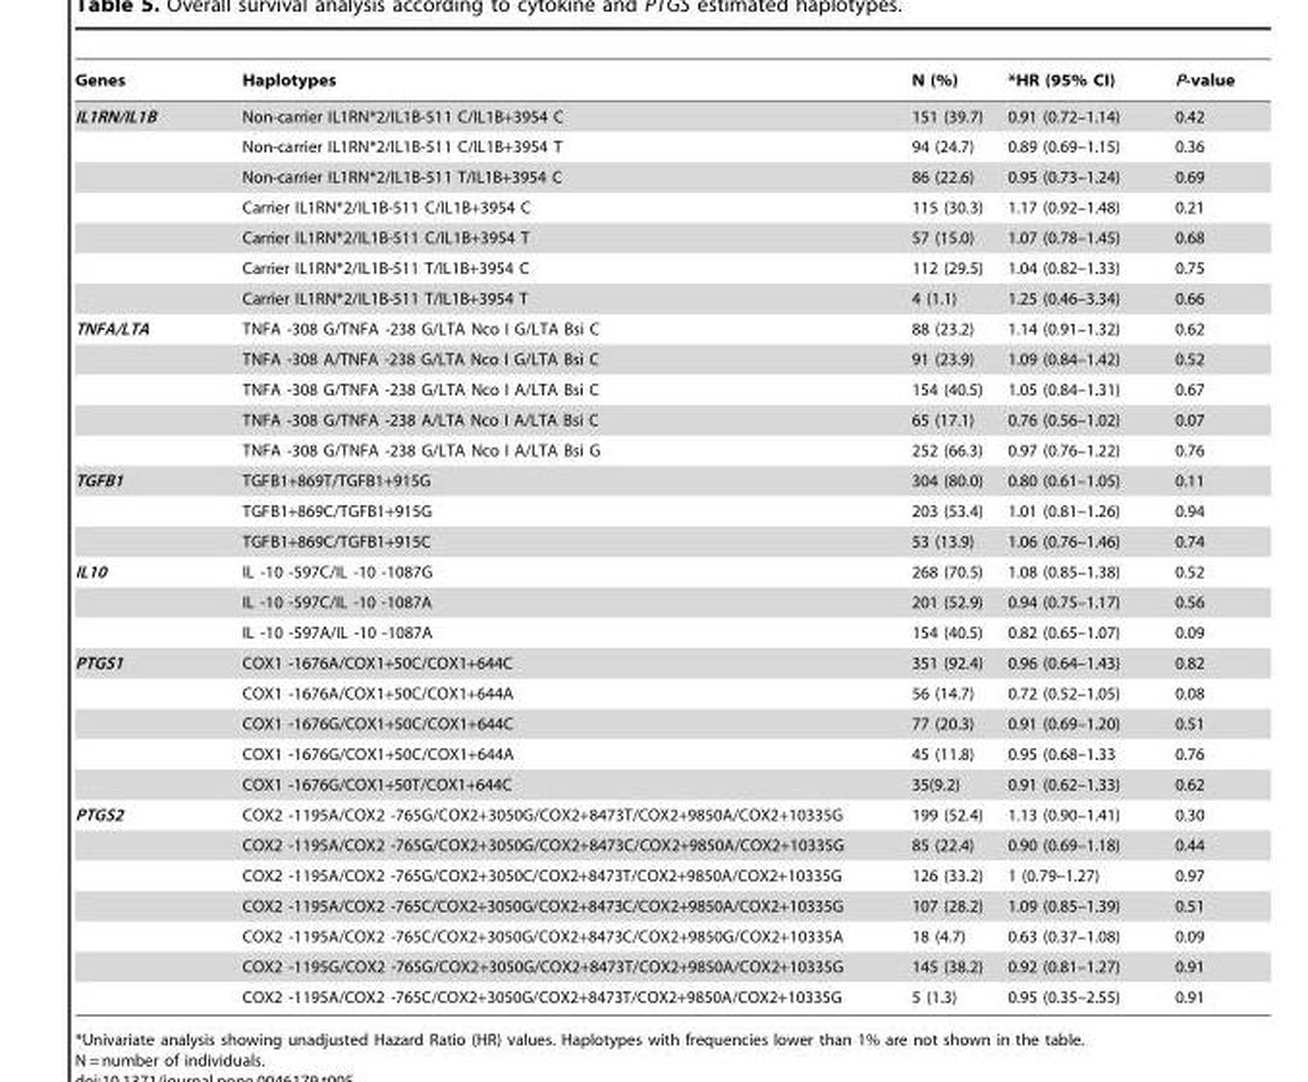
<table><thead><tr><td>Genes</td><td>Haplotypes</td><td>N (%)</td><td>*HR (95% CI)</td><td>P-value</td></tr></thead><tbody><tr><td rowspan="7">IL1RN/IL1B</td><td>Non-carrier IL1RN*2/IL1B-511 C/IL1B+3954 C</td><td>151 (39.7)</td><td>0.91 (0.72–1.14)</td><td>0.42</td></tr><tr><td>Non-carrier IL1RN*2/IL1B-511 C/IL1B+3954 T</td><td>94 (24.7)</td><td>0.89 (0.69–1.15)</td><td>0.36</td></tr><tr><td>Non-carrier IL1RN*2/IL1B-511 T/IL1B+3954 C</td><td>86 (22.6)</td><td>0.95 (0.73–1.24)</td><td>0.69</td></tr><tr><td>Carrier IL1RN*2/IL1B-511 C/IL1B+3954 C</td><td>115 (30.3)</td><td>1.17 (0.92–1.48)</td><td>0.21</td></tr><tr><td>Carrier IL1RN*2/IL1B-511 C/IL1B+3954 T</td><td>57 (15.0)</td><td>1.07 (0.78–1.45)</td><td>0.68</td></tr><tr><td>Carrier IL1RN*2/IL1B-511 T/IL1B+3954 C</td><td>112 (29.5)</td><td>1.04 (0.82–1.33)</td><td>0.75</td></tr><tr><td>Carrier IL1RN*2/IL1B-511 T/IL1B+3954 T</td><td>4 (1.1)</td><td>1.25 (0.46–3.34)</td><td>0.66</td></tr><tr><td rowspan="5">TNFA/LTA</td><td>TNFA -308 G/TNFA -238 G/LTA Nco I G/LTA Bsi C</td><td>88 (23.2)</td><td>1.14 (0.91–1.32)</td><td>0.62</td></tr><tr><td>TNFA -308 A/TNFA -238 G/LTA Nco I G/LTA Bsi C</td><td>91 (23.9)</td><td>1.09 (0.84–1.42)</td><td>0.52</td></tr><tr><td>TNFA -308 G/TNFA -238 G/LTA Nco I A/LTA Bsi C</td><td>154 (40.5)</td><td>1.05 (0.84–1.31)</td><td>0.67</td></tr><tr><td>TNFA -308 G/TNFA -238 A/LTA Nco I A/LTA Bsi C</td><td>65 (17.1)</td><td>0.76 (0.56–1.02)</td><td>0.07</td></tr><tr><td>TNFA -308 G/TNFA -238 G/LTA Nco I A/LTA Bsi G</td><td>252 (66.3)</td><td>0.97 (0.76–1.22)</td><td>0.76</td></tr><tr><td rowspan="3">TGFB1</td><td>TGFB1+869T/TGFB1+915G</td><td>304 (80.0)</td><td>0.80 (0.61–1.05)</td><td>0.11</td></tr><tr><td>TGFB1+869C/TGFB1+915G</td><td>203 (53.4)</td><td>1.01 (0.81–1.26)</td><td>0.94</td></tr><tr><td>TGFB1+869C/TGFB1+915C</td><td>53 (13.9)</td><td>1.06 (0.76–1.46)</td><td>0.74</td></tr><tr><td rowspan="3">IL10</td><td>IL -10 -597C/IL -10 -1087G</td><td>268 (70.5)</td><td>1.08 (0.85–1.38)</td><td>0.52</td></tr><tr><td>IL -10 -597C/IL -10 -1087A</td><td>201 (52.9)</td><td>0.94 (0.75–1.17)</td><td>0.56</td></tr><tr><td>IL -10 -597A/IL -10 -1087A</td><td>154 (40.5)</td><td>0.82 (0.65–1.07)</td><td>0.09</td></tr><tr><td rowspan="5">PTGS1</td><td>COX1 -1676A/COX1+50C/COX1+644C</td><td>351 (92.4)</td><td>0.96 (0.64–1.43)</td><td>0.82</td></tr><tr><td>COX1 -1676A/COX1+50C/COX1+644A</td><td>56 (14.7)</td><td>0.72 (0.52–1.05)</td><td>0.08</td></tr><tr><td>COX1 -1676G/COX1+50C/COX1+644C</td><td>77 (20.3)</td><td>0.91 (0.69–1.20)</td><td>0.51</td></tr><tr><td>COX1 -1676G/COX1+50C/COX1+644A</td><td>45 (11.8)</td><td>0.95 (0.68–1.33</td><td>0.76</td></tr><tr><td>COX1 -1676G/COX1+50T/COX1+644C</td><td>35(9.2)</td><td>0.91 (0.62–1.33)</td><td>0.62</td></tr><tr><td rowspan="7">PTGS2</td><td>COX2 -1195A/COX2 -765G/COX2+3050G/COX2+8473T/COX2+9850A/COX2+10335G</td><td>199 (52.4)</td><td>1.13 (0.90–1.41)</td><td>0.30</td></tr><tr><td>COX2 -1195A/COX2 -765G/COX2+3050G/COX2+8473C/COX2+9850A/COX2+10335G</td><td>85 (22.4)</td><td>0.90 (0.69–1.18)</td><td>0.44</td></tr><tr><td>COX2 -1195A/COX2 -765G/COX2+3050C/COX2+8473T/COX2+9850A/COX2+10335G</td><td>126 (33.2)</td><td>1 (0.79–1.27)</td><td>0.97</td></tr><tr><td>COX2 -1195A/COX2 -765C/COX2+3050G/COX2+8473C/COX2+9850A/COX2+10335G</td><td>107 (28.2)</td><td>1.09 (0.85–1.39)</td><td>0.51</td></tr><tr><td>COX2 -1195A/COX2 -765C/COX2+3050G/COX2+8473C/COX2+9850G/COX2+10335A</td><td>18 (4.7)</td><td>0.63 (0.37–1.08)</td><td>0.09</td></tr><tr><td>COX2 -1195G/COX2 -765G/COX2+3050G/COX2+8473T/COX2+9850A/COX2+10335G</td><td>145 (38.2)</td><td>0.92 (0.81–1.27)</td><td>0.91</td></tr><tr><td>COX2 -1195A/COX2 -765C/COX2+3050G/COX2+8473T/COX2+9850A/COX2+10335G</td><td>5 (1.3)</td><td>0.95 (0.35–2.55)</td><td>0.91</td></tr></tbody></table>